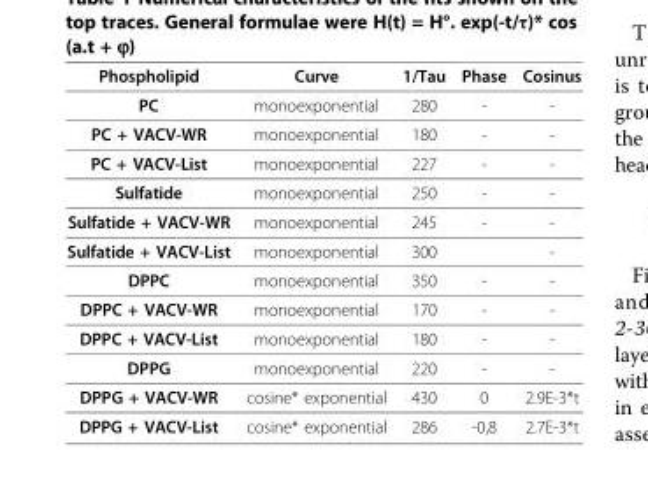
<table><thead><tr><td>Phospholipid</td><td>Curve</td><td>1/Tau</td><td>Phase</td><td>Cosinus</td></tr></thead><tbody><tr><td>PC</td><td>monoexponential</td><td>280</td><td>-</td><td>-</td></tr><tr><td>PC + VACV-WR</td><td>monoexponential</td><td>180</td><td>-</td><td>-</td></tr><tr><td>PC + VACV-List</td><td>monoexponential</td><td>227</td><td>-</td><td>-</td></tr><tr><td>Sulfatide</td><td>monoexponential</td><td>250</td><td>-</td><td>-</td></tr><tr><td>Sulfatide + VACV-WR</td><td>monoexponential</td><td>245</td><td>-</td><td>-</td></tr><tr><td>Sulfatide + VACV-List</td><td>monoexponential</td><td>300</td><td></td><td>-</td></tr><tr><td>DPPC</td><td>monoexponential</td><td>350</td><td>-</td><td>-</td></tr><tr><td>DPPC + VACV-WR</td><td>monoexponential</td><td>170</td><td>-</td><td>-</td></tr><tr><td>DPPC + VACV-List</td><td>monoexponential</td><td>180</td><td>-</td><td>-</td></tr><tr><td>DPPG</td><td>monoexponential</td><td>220</td><td>-</td><td>-</td></tr><tr><td>DPPG + VACV-WR</td><td>cosine* exponential</td><td>430</td><td>0</td><td>2.9E-3*t</td></tr><tr><td>DPPG + VACV-List</td><td>cosine* exponential</td><td>286</td><td>-0,8</td><td>2.7E-3*t</td></tr></tbody></table>